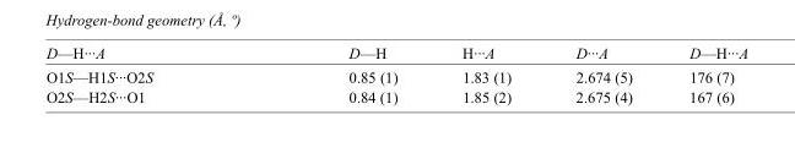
<table><tbody><tr><td>D—H···A</td><td>D—H</td><td>H···A</td><td>D···A</td><td>D—H···A</td></tr><tr><td>O1S—H1S···O2S</td><td>0.85 (1)</td><td>1.83 (1)</td><td>2.674 (5)</td><td>176 (7)</td></tr><tr><td>O2S—H2S···O1</td><td>0.84 (1)</td><td>1.85 (2)</td><td>2.675 (4)</td><td>167 (6)</td></tr></tbody></table>